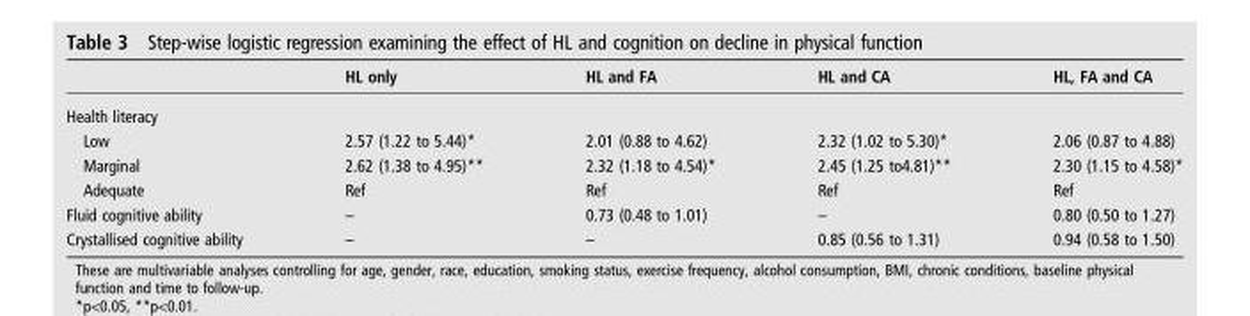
<table><thead><tr><td></td><td>HL only</td><td>HL and FA</td><td>HL and CA</td><td>HL, FA and CA</td></tr></thead><tbody><tr><td colspan="5">Health literacy</td></tr><tr><td>Low</td><td>2.57 (1.22 to 5.44)*</td><td>2.01 (0.88 to 4.62)</td><td>2.32 (1.02 to 5.30)*</td><td>2.06 (0.87 to 4.88)</td></tr><tr><td>Marginal</td><td>2.62 (1.38 to 4.95)**</td><td>2.32 (1.18 to 4.54)*</td><td>2.45 (1.25 to4.81)**</td><td>2.30 (1.15 to 4.58)*</td></tr><tr><td>Adequate</td><td>Ref</td><td>Ref</td><td>Ref</td><td>Ref</td></tr><tr><td>Fluid cognitive ability</td><td>–</td><td>0.73 (0.48 to 1.01)</td><td>–</td><td>0.80 (0.50 to 1.27)</td></tr><tr><td>Crystallised cognitive ability</td><td>–</td><td>–</td><td>0.85 (0.56 to 1.31)</td><td>0.94 (0.58 to 1.50)</td></tr></tbody></table>